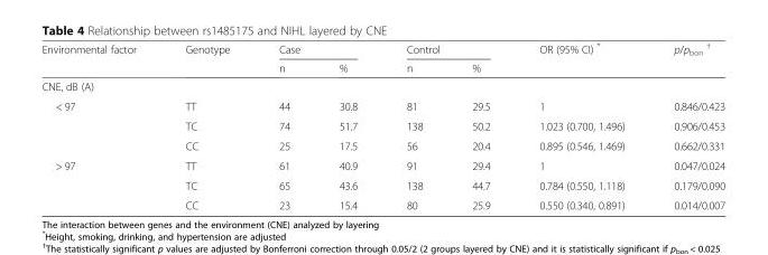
<table><thead><tr><td rowspan="2">Environmental factor</td><td rowspan="2">Genotype</td><td colspan="2">Case</td><td colspan="2">Control</td><td rowspan="2">OR (95% CI) *</td><td rowspan="2">p/p<sub>bon</sub> <sup>†</sup></td></tr><tr><td>n</td><td>%</td><td>n</td><td>%</td></tr></thead><tbody><tr><td colspan="8">CNE, dB (A)</td></tr><tr><td rowspan="3">&lt; 97</td><td>TT</td><td>44</td><td>30.8</td><td>81</td><td>29.5</td><td>1</td><td>0.846/0.423</td></tr><tr><td>TC</td><td>74</td><td>51.7</td><td>138</td><td>50.2</td><td>1.023 (0.700, 1.496)</td><td>0.906/0.453</td></tr><tr><td>CC</td><td>25</td><td>17.5</td><td>56</td><td>20.4</td><td>0.895 (0.546, 1.469)</td><td>0.662/0.331</td></tr><tr><td rowspan="3">&gt; 97</td><td>TT</td><td>61</td><td>40.9</td><td>91</td><td>29.4</td><td>1</td><td>0.047/0.024</td></tr><tr><td>TC</td><td>65</td><td>43.6</td><td>138</td><td>44.7</td><td>0.784 (0.550, 1.118)</td><td>0.179/0.090</td></tr><tr><td>CC</td><td>23</td><td>15.4</td><td>80</td><td>25.9</td><td>0.550 (0.340, 0.891)</td><td>0.014/0.007</td></tr></tbody></table>